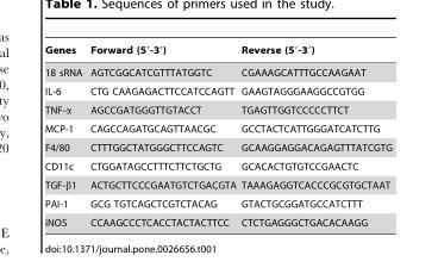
<table><thead><tr><td>Genes</td><td>Forward (5′-3′)</td><td>Reverse (5′-3′)</td></tr></thead><tbody><tr><td>18 sRNA</td><td>AGTCGGCATCGTTTATGGTC</td><td>CGAAAGCATTTGCCAAGAAT</td></tr><tr><td>IL-6</td><td>CTG CAAGAGACTTCCATCCAGTT</td><td>GAAGTAGGGAAGGCCGTGG</td></tr><tr><td>TNF-α</td><td>AGCCGATGGGTTGTACCT</td><td>TGAGTTGGTCCCCCTTCT</td></tr><tr><td>MCP-1</td><td>CAGCCAGATGCAGTTAACGC</td><td>GCCTACTCATTGGGATCATCTTG</td></tr><tr><td>F4/80</td><td>CTTTGGCTATGGGCTTCCAGTC</td><td>GCAAGGAGGACAGAGTTTATCGTG</td></tr><tr><td>CD11c</td><td>CTGGATAGCCTTTCTTCTGCTG</td><td>GCACACTGTGTCCGAACTC</td></tr><tr><td>TGF-β1</td><td>ACTGCTTCCCGAATGTCTGACGTA</td><td>TAAAGAGGTCACCCGCGTGCTAAT</td></tr><tr><td>PAI-1</td><td>GCG TGTCAGCTCGTCTACAG</td><td>GTACTGCGGATGCCATCTTT</td></tr><tr><td>iNOS</td><td>CCAAGCCCTCACCTACTACTTCC</td><td>CTCTGAGGGCTGACACAAGG</td></tr></tbody></table>